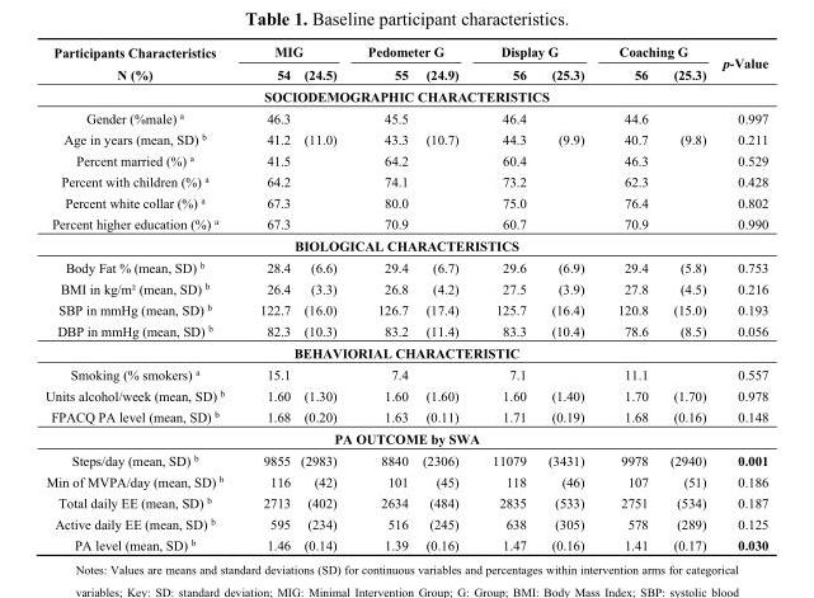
<table><thead><tr><td rowspan="2">Participants Characteristics N (%)</td><td colspan="2">MIG</td><td colspan="2">Pedometer G</td><td colspan="2">Display G</td><td colspan="2">Coaching G</td><td rowspan="2">p-Value</td></tr><tr><td>54</td><td>(24.5)</td><td>55</td><td>(24.9)</td><td>56</td><td>(25.3)</td><td>56</td><td>(25.3)</td></tr></thead><tbody><tr><td colspan="10">SOCIODEMOGRAPHIC CHARACTERISTICS</td></tr><tr><td>Gender (%male) <sup>a</sup></td><td>46.3</td><td></td><td>45.5</td><td></td><td>46.4</td><td></td><td>44.6</td><td></td><td>0.997</td></tr><tr><td>Age in years (mean, SD) <sup>b</sup></td><td>41.2</td><td>(11.0)</td><td>43.3</td><td>(10.7)</td><td>44.3</td><td>(9.9)</td><td>40.7</td><td>(9.8)</td><td>0.211</td></tr><tr><td>Percent married (%) <sup>a</sup></td><td>41.5</td><td></td><td>64.2</td><td></td><td>60.4</td><td></td><td>46.3</td><td></td><td>0.529</td></tr><tr><td>Percent with children (%) <sup>a</sup></td><td>64.2</td><td></td><td>74.1</td><td></td><td>73.2</td><td></td><td>62.3</td><td></td><td>0.428</td></tr><tr><td>Percent white collar (%) <sup>a</sup></td><td>67.3</td><td></td><td>80.0</td><td></td><td>75.0</td><td></td><td>76.4</td><td></td><td>0.802</td></tr><tr><td>Percent higher education (%) <sup>a</sup></td><td>67.3</td><td></td><td>70.9</td><td></td><td>60.7</td><td></td><td>70.9</td><td></td><td>0.990</td></tr><tr><td colspan="10">BIOLOGICAL CHARACTERISTICS</td></tr><tr><td>Body Fat % (mean, SD) <sup>b</sup></td><td>28.4</td><td>(6.6)</td><td>29.4</td><td>(6.7)</td><td>29.6</td><td>(6.9)</td><td>29.4</td><td>(5.8)</td><td>0.753</td></tr><tr><td>BMI in kg/m² (mean, SD) <sup>b</sup></td><td>26.4</td><td>(3.3)</td><td>26.8</td><td>(4.2)</td><td>27.5</td><td>(3.9)</td><td>27.8</td><td>(4.5)</td><td>0.216</td></tr><tr><td>SBP in mmHg (mean, SD) <sup>b</sup></td><td>122.7</td><td>(16.0)</td><td>126.7</td><td>(17.4)</td><td>125.7</td><td>(16.4)</td><td>120.8</td><td>(15.0)</td><td>0.193</td></tr><tr><td>DBP in mmHg (mean, SD) <sup>b</sup></td><td>82.3</td><td>(10.3)</td><td>83.2</td><td>(11.4)</td><td>83.3</td><td>(10.4)</td><td>78.6</td><td>(8.5)</td><td>0.056</td></tr><tr><td colspan="10">BEHAVIORIAL CHARACTERISTIC</td></tr><tr><td>Smoking (% smokers) <sup>a</sup></td><td>15.1</td><td></td><td>7.4</td><td></td><td>7.1</td><td></td><td>11.1</td><td></td><td>0.557</td></tr><tr><td>Units alcohol/week (mean, SD) <sup>b</sup></td><td>1.60</td><td>(1.30)</td><td>1.60</td><td>(1.60)</td><td>1.60</td><td>(1.40)</td><td>1.70</td><td>(1.70)</td><td>0.978</td></tr><tr><td>FPACQ PA level (mean, SD) <sup>b</sup></td><td>1.68</td><td>(0.20)</td><td>1.63</td><td>(0.11)</td><td>1.71</td><td>(0.19)</td><td>1.68</td><td>(0.16)</td><td>0.148</td></tr><tr><td colspan="10">PA OUTCOME by SWA</td></tr><tr><td>Steps/day (mean, SD) <sup>b</sup></td><td>9855</td><td>(2983)</td><td>8840</td><td>(2306)</td><td>11079</td><td>(3431)</td><td>9978</td><td>(2940)</td><td>0.001</td></tr><tr><td>Min of MVPA/day (mean, SD) <sup>b</sup></td><td>116</td><td>(42)</td><td>101</td><td>(45)</td><td>118</td><td>(46)</td><td>107</td><td>(51)</td><td>0.186</td></tr><tr><td>Total daily EE (mean, SD) <sup>b</sup></td><td>2713</td><td>(402)</td><td>2634</td><td>(484)</td><td>2835</td><td>(533)</td><td>2751</td><td>(534)</td><td>0.187</td></tr><tr><td>Active daily EE (mean, SD) <sup>b</sup></td><td>595</td><td>(234)</td><td>516</td><td>(245)</td><td>638</td><td>(305)</td><td>578</td><td>(289)</td><td>0.125</td></tr><tr><td>PA level (mean, SD) <sup>b</sup></td><td>1.46</td><td>(0.14)</td><td>1.39</td><td>(0.16)</td><td>1.47</td><td>(0.16)</td><td>1.41</td><td>(0.17)</td><td>0.030</td></tr></tbody></table>